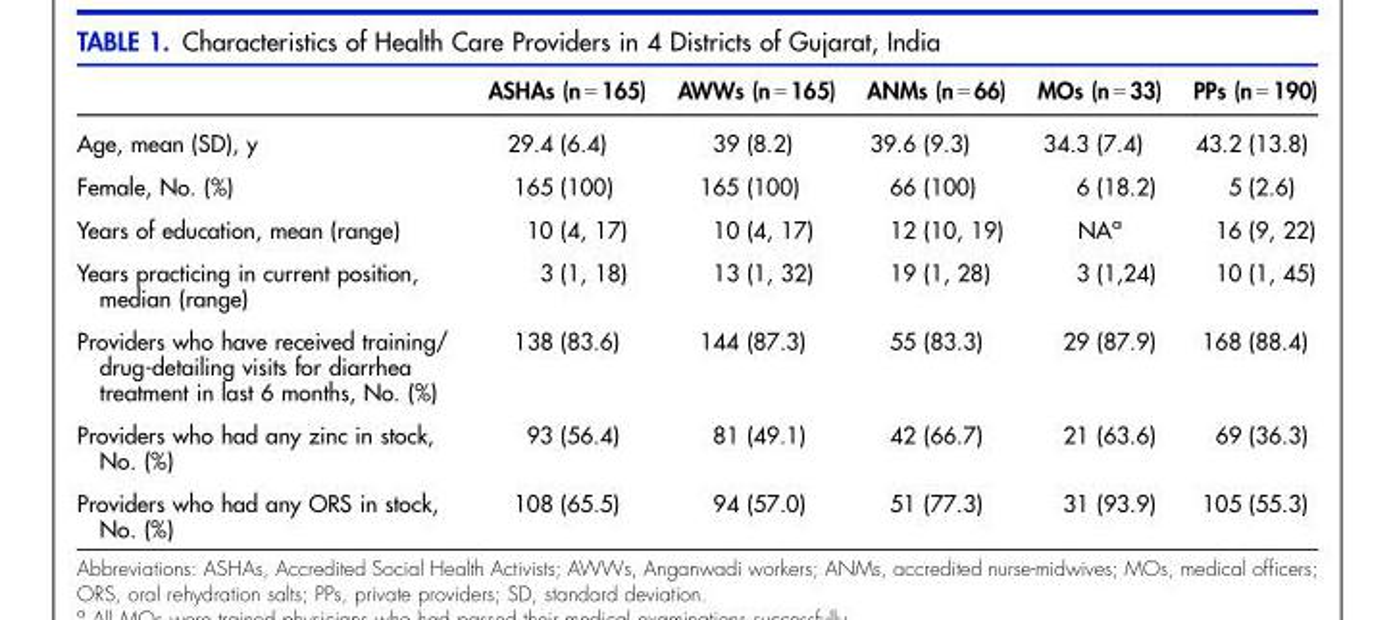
<table><thead><tr><td></td><td>ASHAs (n = 165)</td><td>AWWs (n = 165)</td><td>ANMs (n = 66)</td><td>MOs (n = 33)</td><td>PPs (n = 190)</td></tr></thead><tbody><tr><td>Age, mean (SD), y</td><td>29.4 (6.4)</td><td>39 (8.2)</td><td>39.6 (9.3)</td><td>34.3 (7.4)</td><td>43.2 (13.8)</td></tr><tr><td>Female, No. (%)</td><td>165 (100)</td><td>165 (100)</td><td>66 (100)</td><td>6 (18.2)</td><td>5 (2.6)</td></tr><tr><td>Years of education, mean (range)</td><td>10 (4, 17)</td><td>10 (4, 17)</td><td>12 (10, 19)</td><td>NA<sup>a</sup></td><td>16 (9, 22)</td></tr><tr><td>Years practicing in current position, median (range)</td><td>3 (1, 18)</td><td>13 (1, 32)</td><td>19 (1, 28)</td><td>3 (1,24)</td><td>10 (1, 45)</td></tr><tr><td>Providers who have received training/ drug-detailing visits for diarrhea treatment in last 6 months, No. (%)</td><td>138 (83.6)</td><td>144 (87.3)</td><td>55 (83.3)</td><td>29 (87.9)</td><td>168 (88.4)</td></tr><tr><td>Providers who had any zinc in stock, No. (%)</td><td>93 (56.4)</td><td>81 (49.1)</td><td>42 (66.7)</td><td>21 (63.6)</td><td>69 (36.3)</td></tr><tr><td>Providers who had any ORS in stock, No. (%)</td><td>108 (65.5)</td><td>94 (57.0)</td><td>51 (77.3)</td><td>31 (93.9)</td><td>105 (55.3)</td></tr></tbody></table>